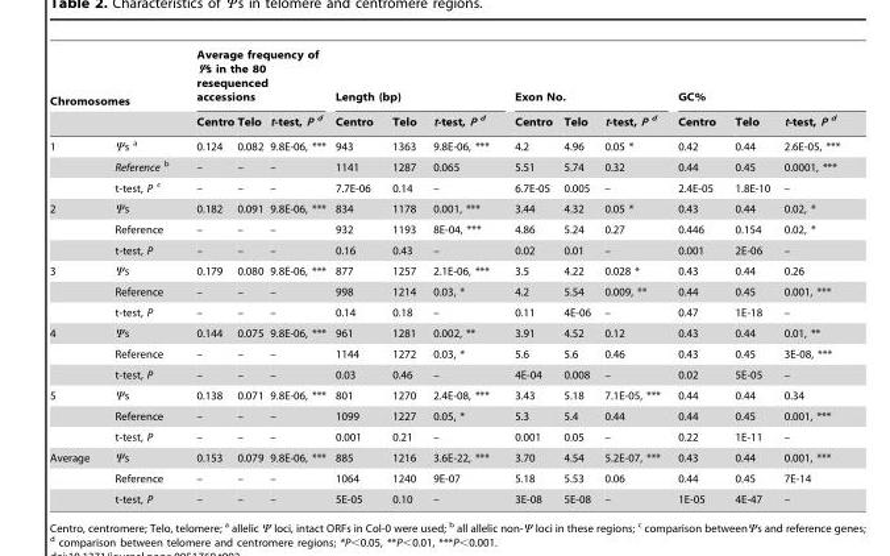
<table><thead><tr><td colspan="2">Chromosomes</td><td colspan="3">Average frequency of Ψs in the 80 resequenced accessions</td><td colspan="3">Length (bp)</td><td colspan="3">Exon No.</td><td colspan="3">GC%</td></tr><tr><td></td><td></td><td>Centro</td><td>Telo</td><td>t-test, P <sup>d</sup></td><td>Centro</td><td>Telo</td><td>t-test, P <sup>d</sup></td><td>Centro</td><td>Telo</td><td>t-test, P <sup>d</sup></td><td>Centro</td><td>Telo</td><td>t-test, P <sup>d</sup></td></tr></thead><tbody><tr><td rowspan="3">1</td><td>Ψs <sup>a</sup></td><td>0.124</td><td>0.082</td><td>9.8E-06, ***</td><td>943</td><td>1363</td><td>9.8E-06, ***</td><td>4.2</td><td>4.96</td><td>0.05 *</td><td>0.42</td><td>0.44</td><td>2.6E-05, ***</td></tr><tr><td>Reference <sup>b</sup></td><td>–</td><td>–</td><td>–</td><td>1141</td><td>1287</td><td>0.065</td><td>5.51</td><td>5.74</td><td>0.32</td><td>0.44</td><td>0.45</td><td>0.0001, ***</td></tr><tr><td>t-test, P <sup>c</sup></td><td>–</td><td>–</td><td>–</td><td>7.7E-06</td><td>0.14</td><td>–</td><td>6.7E-05</td><td>0.005</td><td>–</td><td>2.4E-05</td><td>1.8E-10</td><td>–</td></tr><tr><td rowspan="3">2</td><td>Ψs</td><td>0.182</td><td>0.091</td><td>9.8E-06, ***</td><td>834</td><td>1178</td><td>0.001, ***</td><td>3.44</td><td>4.32</td><td>0.05 *</td><td>0.43</td><td>0.44</td><td>0.02, *</td></tr><tr><td>Reference</td><td>–</td><td>–</td><td>–</td><td>932</td><td>1193</td><td>8E-04, ***</td><td>4.86</td><td>5.24</td><td>0.27</td><td>0.446</td><td>0.154</td><td>0.02, *</td></tr><tr><td>t-test, P</td><td>–</td><td>–</td><td>–</td><td>0.16</td><td>0.43</td><td>–</td><td>0.02</td><td>0.01</td><td>–</td><td>0.001</td><td>2E-06</td><td>–</td></tr><tr><td rowspan="3">3</td><td>Ψs</td><td>0.179</td><td>0.080</td><td>9.8E-06, ***</td><td>877</td><td>1257</td><td>2.1E-06, ***</td><td>3.5</td><td>4.22</td><td>0.028 *</td><td>0.43</td><td>0.44</td><td>0.26</td></tr><tr><td>Reference</td><td>–</td><td>–</td><td>–</td><td>998</td><td>1214</td><td>0.03, *</td><td>4.2</td><td>5.54</td><td>0.009, **</td><td>0.44</td><td>0.45</td><td>0.001, ***</td></tr><tr><td>t-test, P</td><td>–</td><td>–</td><td>–</td><td>0.14</td><td>0.18</td><td>–</td><td>0.11</td><td>4E-06</td><td>–</td><td>0.47</td><td>1E-18</td><td>–</td></tr><tr><td rowspan="3">4</td><td>Ψs</td><td>0.144</td><td>0.075</td><td>9.8E-06, ***</td><td>961</td><td>1281</td><td>0.002, **</td><td>3.91</td><td>4.52</td><td>0.12</td><td>0.43</td><td>0.44</td><td>0.01, **</td></tr><tr><td>Reference</td><td>–</td><td>–</td><td>–</td><td>1144</td><td>1272</td><td>0.03, *</td><td>5.6</td><td>5.6</td><td>0.46</td><td>0.43</td><td>0.45</td><td>3E-08, ***</td></tr><tr><td>t-test, P</td><td>–</td><td>–</td><td>–</td><td>0.03</td><td>0.46</td><td>–</td><td>4E-04</td><td>0.008</td><td>–</td><td>0.02</td><td>5E-05</td><td>–</td></tr><tr><td rowspan="3">5</td><td>Ψs</td><td>0.138</td><td>0.071</td><td>9.8E-06, ***</td><td>801</td><td>1270</td><td>2.4E-08, ***</td><td>3.43</td><td>5.18</td><td>7.1E-05, ***</td><td>0.44</td><td>0.44</td><td>0.34</td></tr><tr><td>Reference</td><td>–</td><td>–</td><td>–</td><td>1099</td><td>1227</td><td>0.05, *</td><td>5.3</td><td>5.4</td><td>0.44</td><td>0.44</td><td>0.45</td><td>0.001, ***</td></tr><tr><td>t-test, P</td><td>–</td><td>–</td><td>–</td><td>0.001</td><td>0.21</td><td>–</td><td>0.001</td><td>0.05</td><td>–</td><td>0.22</td><td>1E-11</td><td>–</td></tr><tr><td rowspan="3">Average</td><td>Ψs</td><td>0.153</td><td>0.079</td><td>9.8E-06, ***</td><td>885</td><td>1216</td><td>3.6E-22, ***</td><td>3.70</td><td>4.54</td><td>5.2E-07, ***</td><td>0.43</td><td>0.44</td><td>0.001, ***</td></tr><tr><td>Reference</td><td>–</td><td>–</td><td>–</td><td>1064</td><td>1240</td><td>9E-07</td><td>5.18</td><td>5.53</td><td>0.06</td><td>0.44</td><td>0.45</td><td>7E-14</td></tr><tr><td>t-test, P</td><td>–</td><td>–</td><td>–</td><td>5E-05</td><td>0.10</td><td>–</td><td>3E-08</td><td>5E-08</td><td>–</td><td>1E-05</td><td>4E-47</td><td>–</td></tr></tbody></table>